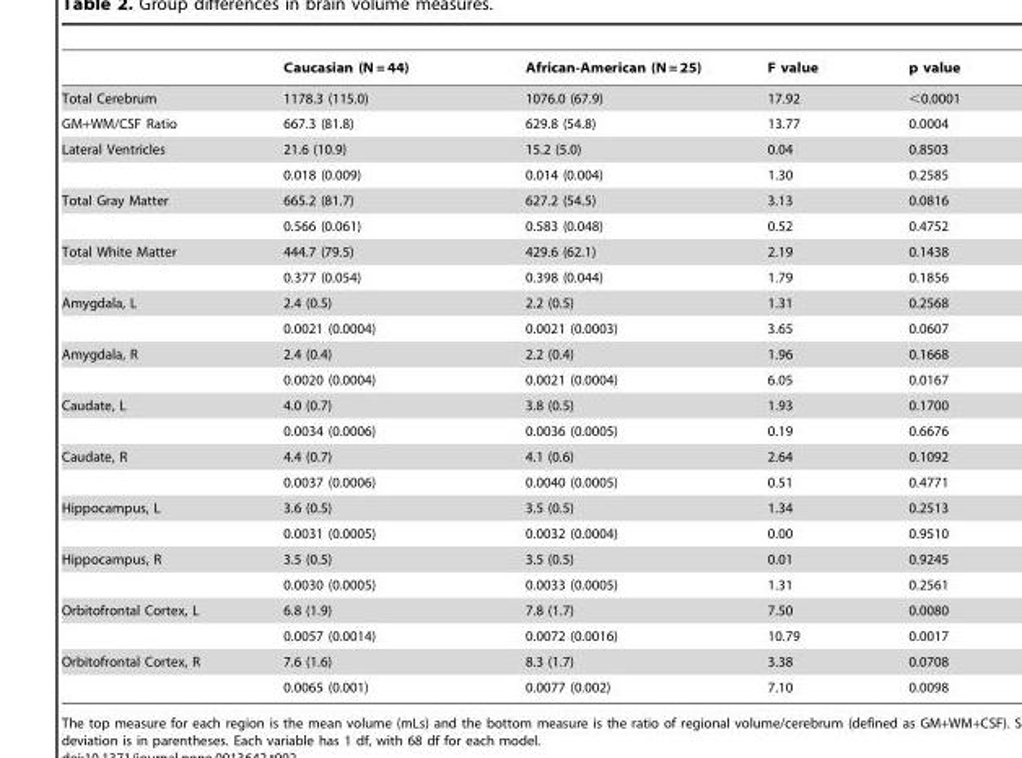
<table><thead><tr><td></td><td>Caucasian (N = 44)</td><td>African-American (N = 25)</td><td>F value</td><td>p value</td></tr></thead><tbody><tr><td>Total Cerebrum</td><td>1178.3 (115.0)</td><td>1076.0 (67.9)</td><td>17.92</td><td>&lt;0.0001</td></tr><tr><td>GM+WM/CSF Ratio</td><td>667.3 (81.8)</td><td>629.8 (54.8)</td><td>13.77</td><td>0.0004</td></tr><tr><td rowspan="2">Lateral Ventricles</td><td>21.6 (10.9)</td><td>15.2 (5.0)</td><td>0.04</td><td>0.8503</td></tr><tr><td>0.018 (0.009)</td><td>0.014 (0.004)</td><td>1.30</td><td>0.2585</td></tr><tr><td rowspan="2">Total Gray Matter</td><td>665.2 (81.7)</td><td>627.2 (54.5)</td><td>3.13</td><td>0.0816</td></tr><tr><td>0.566 (0.061)</td><td>0.583 (0.048)</td><td>0.52</td><td>0.4752</td></tr><tr><td rowspan="2">Total White Matter</td><td>444.7 (79.5)</td><td>429.6 (62.1)</td><td>2.19</td><td>0.1438</td></tr><tr><td>0.377 (0.054)</td><td>0.398 (0.044)</td><td>1.79</td><td>0.1856</td></tr><tr><td rowspan="2">Amygdala, L</td><td>2.4 (0.5)</td><td>2.2 (0.5)</td><td>1.31</td><td>0.2568</td></tr><tr><td>0.0021 (0.0004)</td><td>0.0021 (0.0003)</td><td>3.65</td><td>0.0607</td></tr><tr><td rowspan="2">Amygdala, R</td><td>2.4 (0.4)</td><td>2.2 (0.4)</td><td>1.96</td><td>0.1668</td></tr><tr><td>0.0020 (0.0004)</td><td>0.0021 (0.0004)</td><td>6.05</td><td>0.0167</td></tr><tr><td rowspan="2">Caudate, L</td><td>4.0 (0.7)</td><td>3.8 (0.5)</td><td>1.93</td><td>0.1700</td></tr><tr><td>0.0034 (0.0006)</td><td>0.0036 (0.0005)</td><td>0.19</td><td>0.6676</td></tr><tr><td rowspan="2">Caudate, R</td><td>4.4 (0.7)</td><td>4.1 (0.6)</td><td>2.64</td><td>0.1092</td></tr><tr><td>0.0037 (0.0006)</td><td>0.0040 (0.0005)</td><td>0.51</td><td>0.4771</td></tr><tr><td rowspan="2">Hippocampus, L</td><td>3.6 (0.5)</td><td>3.5 (0.5)</td><td>1.34</td><td>0.2513</td></tr><tr><td>0.0031 (0.0005)</td><td>0.0032 (0.0004)</td><td>0.00</td><td>0.9510</td></tr><tr><td rowspan="2">Hippocampus, R</td><td>3.5 (0.5)</td><td>3.5 (0.5)</td><td>0.01</td><td>0.9245</td></tr><tr><td>0.0030 (0.0005)</td><td>0.0033 (0.0005)</td><td>1.31</td><td>0.2561</td></tr><tr><td rowspan="2">Orbitofrontal Cortex, L</td><td>6.8 (1.9)</td><td>7.8 (1.7)</td><td>7.50</td><td>0.0080</td></tr><tr><td>0.0057 (0.0014)</td><td>0.0072 (0.0016)</td><td>10.79</td><td>0.0017</td></tr><tr><td rowspan="2">Orbitofrontal Cortex, R</td><td>7.6 (1.6)</td><td>8.3 (1.7)</td><td>3.38</td><td>0.0708</td></tr><tr><td>0.0065 (0.001)</td><td>0.0077 (0.002)</td><td>7.10</td><td>0.0098</td></tr></tbody></table>